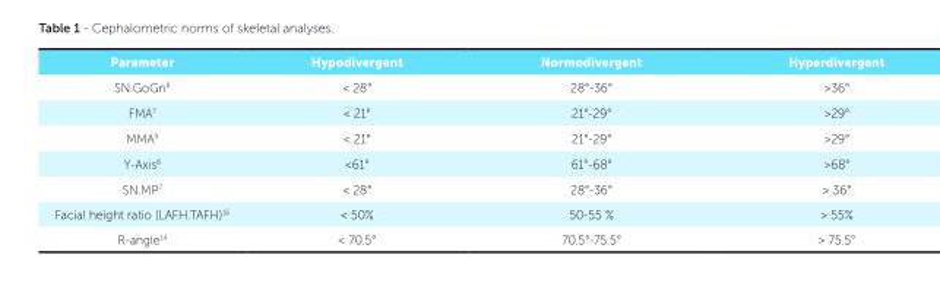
<table><tbody><tr><td>Parameter</td><td>Hypodivergent</td><td>Normodivergent</td><td>Hyperdivergent</td></tr><tr><td>SN.GoGn<sup>8</sup></td><td>&lt; 28°</td><td>28°-36°</td><td>&gt;36°</td></tr><tr><td>FMA<sup>7</sup></td><td>&lt; 21°</td><td>21°-29°</td><td>&gt;29°</td></tr><tr><td>MMA<sup>9</sup></td><td>&lt; 21°</td><td>21°-29°</td><td>&gt;29°</td></tr><tr><td>Y-Axis<sup>8</sup></td><td>&lt;61°</td><td>61°-68°</td><td>&gt;68°</td></tr><tr><td>SN.MP<sup>7</sup></td><td>&lt; 28°</td><td>28°-36°</td><td>&gt; 36°</td></tr><tr><td>Facial height ratio (LAFH.TAFH)<sup>16</sup></td><td>&lt; 50%</td><td>50-55 %</td><td>&gt; 55%</td></tr><tr><td>R-angle<sup>14</sup></td><td>&lt; 70.5°</td><td>70.5°-75.5°</td><td>&gt; 75.5°</td></tr></tbody></table>